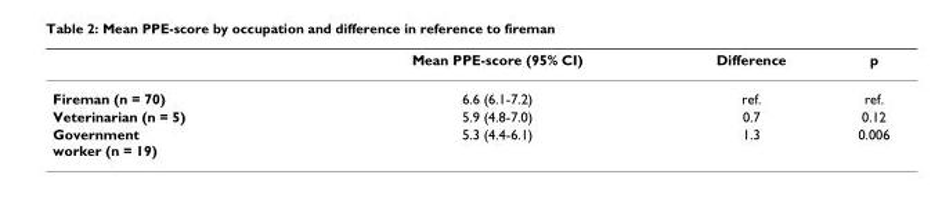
<table><thead><tr><td></td><td>Mean PPE-score (95% CI)</td><td>Difference</td><td>p</td></tr></thead><tbody><tr><td>Fireman (n = 70)</td><td>6.6 (6.1-7.2)</td><td>ref.</td><td>ref.</td></tr><tr><td>Veterinarian (n = 5)</td><td>5.9 (4.8-7.0)</td><td>0.7</td><td>0.12</td></tr><tr><td>Government worker (n = 19)</td><td>5.3 (4.4-6.1)</td><td>1.3</td><td>0.006</td></tr></tbody></table>